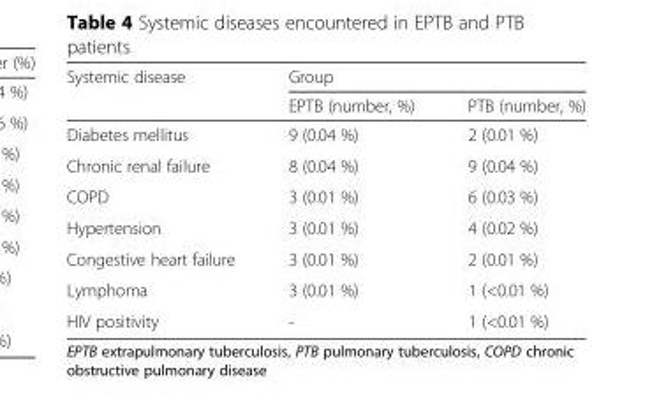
<table><thead><tr><td rowspan="2">Systemic disease</td><td colspan="2">Group</td></tr><tr><td>EPTB (number, %)</td><td>PTB (number, %)</td></tr></thead><tbody><tr><td>Diabetes mellitus</td><td>9 (0.04 %)</td><td>2 (0.01 %)</td></tr><tr><td>Chronic renal failure</td><td>8 (0.04 %)</td><td>9 (0.04 %)</td></tr><tr><td>COPD</td><td>3 (0.01 %)</td><td>6 (0.03 %)</td></tr><tr><td>Hypertension</td><td>3 (0.01 %)</td><td>4 (0.02 %)</td></tr><tr><td>Congestive heart failure</td><td>3 (0.01 %)</td><td>2 (0.01 %)</td></tr><tr><td>Lymphoma</td><td>3 (0.01 %)</td><td>1 (&lt;0.01 %)</td></tr><tr><td>HIV positivity</td><td>-</td><td>1 (&lt;0.01 %)</td></tr></tbody></table>